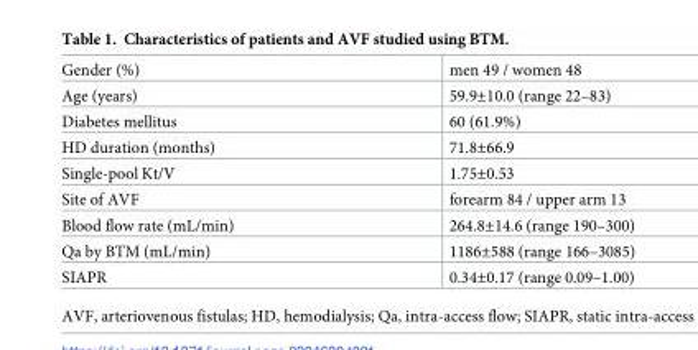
<table><tbody><tr><td>Gender (%)</td><td>men 49 / women 48</td></tr><tr><td>Age (years)</td><td>59.9±10.0 (range 22–83)</td></tr><tr><td>Diabetes mellitus</td><td>60 (61.9%)</td></tr><tr><td>HD duration (months)</td><td>71.8±66.9</td></tr><tr><td>Single-pool Kt/V</td><td>1.75±0.53</td></tr><tr><td>Site of AVF</td><td>forearm 84 / upper arm 13</td></tr><tr><td>Blood flow rate (mL/min)</td><td>264.8±14.6 (range 190–300)</td></tr><tr><td>Qa by BTM (mL/min)</td><td>1186±588 (range 166–3085)</td></tr><tr><td>SIAPR</td><td>0.34±0.17 (range 0.09–1.00)</td></tr></tbody></table>